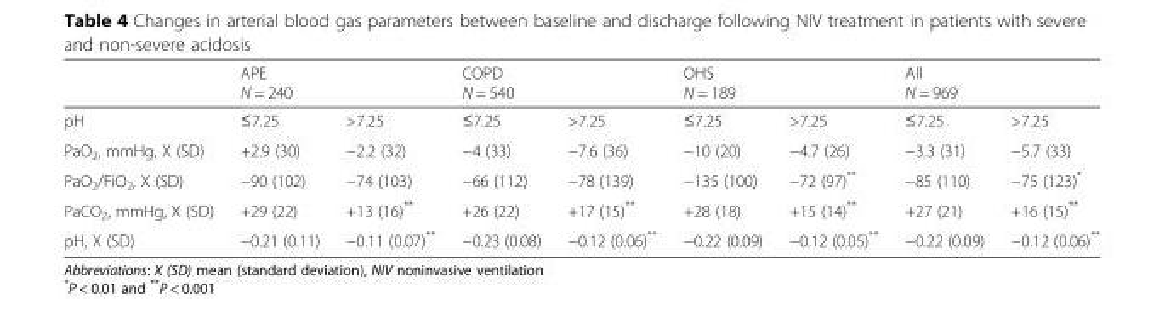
<table><thead><tr><td rowspan="2">pH</td><td colspan="2">APE N = 240</td><td colspan="2">COPD N = 540</td><td colspan="2">OHS N = 189</td><td colspan="2">All N = 969</td></tr><tr><td>≤7.25</td><td>&gt;7.25</td><td>≤7.25</td><td>&gt;7.25</td><td>≤7.25</td><td>&gt;7.25</td><td>≤7.25</td><td>&gt;7.25</td></tr></thead><tbody><tr><td>PaO<sub>2</sub>, mmHg, X (SD)</td><td>+2.9 (30)</td><td>−2.2 (32)</td><td>−4 (33)</td><td>−7.6 (36)</td><td>−10 (20)</td><td>−4.7 (26)</td><td>−3.3 (31)</td><td>−5.7 (33)</td></tr><tr><td>PaO<sub>2</sub>/FiO<sub>2</sub>, X (SD)</td><td>−90 (102)</td><td>−74 (103)</td><td>−66 (112)</td><td>−78 (139)</td><td>−135 (100)</td><td>−72 (97)**</td><td>−85 (110)</td><td>−75 (123)*</td></tr><tr><td>PaCO<sub>2</sub>, mmHg, X (SD)</td><td>+29 (22)</td><td>+13 (16)**</td><td>+26 (22)</td><td>+17 (15)**</td><td>+28 (18)</td><td>+15 (14)**</td><td>+27 (21)</td><td>+16 (15)**</td></tr><tr><td>pH, X (SD)</td><td>−0.21 (0.11)</td><td>−0.11 (0.07)**</td><td>−0.23 (0.08)</td><td>−0.12 (0.06)**</td><td>−0.22 (0.09)</td><td>−0.12 (0.05)**</td><td>−0.22 (0.09)</td><td>−0.12 (0.06)**</td></tr></tbody></table>